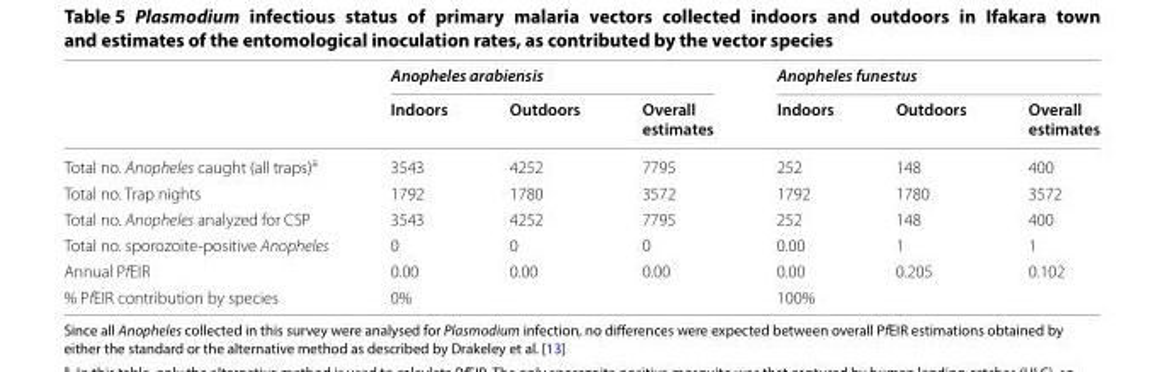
<table><thead><tr><td rowspan="2"></td><td colspan="3">Anopheles arabiensis</td><td colspan="3">Anopheles funestus</td></tr><tr><td>Indoors</td><td>Outdoors</td><td>Overall estimates</td><td>Indoors</td><td>Outdoors</td><td>Overall estimates</td></tr></thead><tbody><tr><td>Total no. Anopheles caught (all traps)<sup>a</sup></td><td>3543</td><td>4252</td><td>7795</td><td>252</td><td>148</td><td>400</td></tr><tr><td>Total no. Trap nights</td><td>1792</td><td>1780</td><td>3572</td><td>1792</td><td>1780</td><td>3572</td></tr><tr><td>Total no. Anopheles analyzed for CSP</td><td>3543</td><td>4252</td><td>7795</td><td>252</td><td>148</td><td>400</td></tr><tr><td>Total no. sporozoite-positive Anopheles</td><td>0</td><td>0</td><td>0</td><td>0.00</td><td>1</td><td>1</td></tr><tr><td>Annual PfEIR</td><td>0.00</td><td>0.00</td><td>0.00</td><td>0.00</td><td>0.205</td><td>0.102</td></tr><tr><td>% PfEIR contribution by species</td><td colspan="3">0%</td><td colspan="3">100%</td></tr></tbody></table>